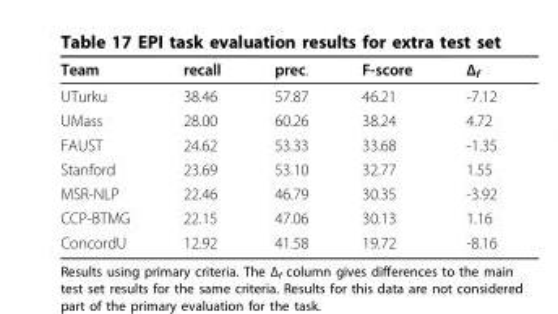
<table><thead><tr><td>Team</td><td>recall</td><td>prec.</td><td>F-score</td><td>Δ<sub>f</sub></td></tr></thead><tbody><tr><td>UTurku</td><td>38.46</td><td>57.87</td><td>46.21</td><td>-7.12</td></tr><tr><td>UMass</td><td>28.00</td><td>60.26</td><td>38.24</td><td>4.72</td></tr><tr><td>FAUST</td><td>24.62</td><td>53.33</td><td>33.68</td><td>-1.35</td></tr><tr><td>Stanford</td><td>23.69</td><td>53.10</td><td>32.77</td><td>1.55</td></tr><tr><td>MSR-NLP</td><td>22.46</td><td>46.79</td><td>30.35</td><td>-3.92</td></tr><tr><td>CCP-BTMG</td><td>22.15</td><td>47.06</td><td>30.13</td><td>1.16</td></tr><tr><td>ConcordU</td><td>12.92</td><td>41.58</td><td>19.72</td><td>-8.16</td></tr></tbody></table>